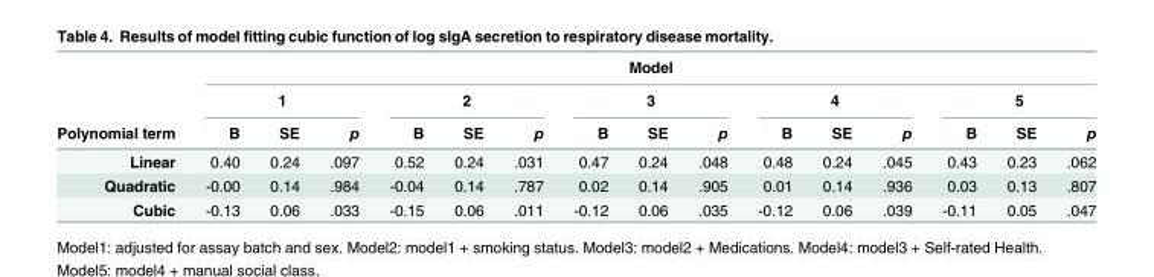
<table><thead><tr><td rowspan="3">Polynomial term</td><td colspan="15">Model</td></tr><tr><td colspan="3">1</td><td colspan="3">2</td><td colspan="3">3</td><td colspan="3">4</td><td colspan="3">5</td></tr><tr><td>B</td><td>SE</td><td>p</td><td>B</td><td>SE</td><td>p</td><td>B</td><td>SE</td><td>p</td><td>B</td><td>SE</td><td>p</td><td>B</td><td>SE</td><td>p</td></tr></thead><tbody><tr><td>Linear</td><td>0.40</td><td>0.24</td><td>.097</td><td>0.52</td><td>0.24</td><td>.031</td><td>0.47</td><td>0.24</td><td>.048</td><td>0.48</td><td>0.24</td><td>.045</td><td>0.43</td><td>0.23</td><td>.062</td></tr><tr><td>Quadratic</td><td>-0.00</td><td>0.14</td><td>.984</td><td>-0.04</td><td>0.14</td><td>.787</td><td>0.02</td><td>0.14</td><td>.905</td><td>0.01</td><td>0.14</td><td>.936</td><td>0.03</td><td>0.13</td><td>.807</td></tr><tr><td>Cubic</td><td>-0.13</td><td>0.06</td><td>.033</td><td>-0.15</td><td>0.06</td><td>.011</td><td>-0.12</td><td>0.06</td><td>.035</td><td>-0.12</td><td>0.06</td><td>.039</td><td>-0.11</td><td>0.05</td><td>.047</td></tr></tbody></table>